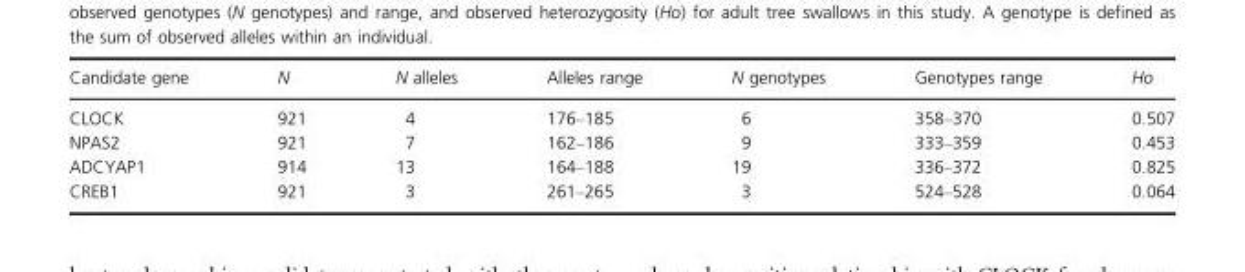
<table><thead><tr><td>Candidate gene</td><td>N</td><td>N alleles</td><td>Alleles range</td><td>N genotypes</td><td>Genotypes range</td><td>Ho</td></tr></thead><tbody><tr><td>CLOCK</td><td>921</td><td>4</td><td>176–185</td><td>6</td><td>358–370</td><td>0.507</td></tr><tr><td>NPAS2</td><td>921</td><td>7</td><td>162–186</td><td>9</td><td>333–359</td><td>0.453</td></tr><tr><td>ADCYAP1</td><td>914</td><td>13</td><td>164–188</td><td>19</td><td>336–372</td><td>0.825</td></tr><tr><td>CREB1</td><td>921</td><td>3</td><td>261–265</td><td>3</td><td>524–528</td><td>0.064</td></tr></tbody></table>